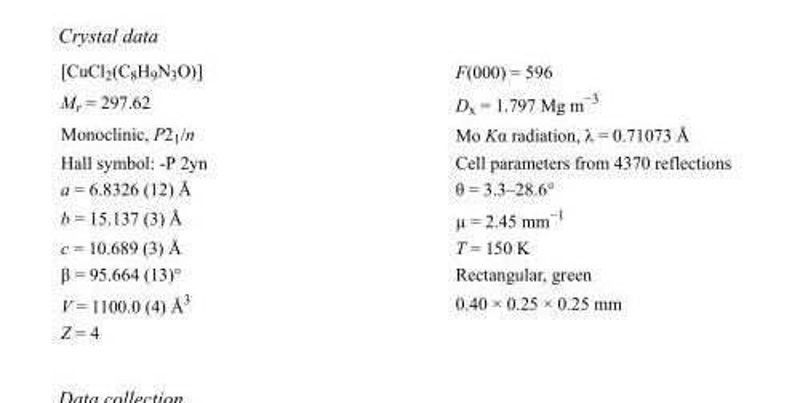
<table><tbody><tr><td>[CuCl<sub>2</sub>(C<sub>8</sub>H<sub>9</sub>N<sub>3</sub>O)]</td><td>F(000) = 596</td></tr><tr><td>M<sub>r</sub> = 297.62</td><td>D<sub>x</sub> = 1.797 Mg m<sup>−3</sup></td></tr><tr><td>Monoclinic, P2<sub>1</sub>/n</td><td>Mo Kα radiation, λ = 0.71073 Å</td></tr><tr><td>Hall symbol: -P 2yn</td><td>Cell parameters from 4370 reflections</td></tr><tr><td>a = 6.8326 (12) Å</td><td>θ = 3.3–28.6°</td></tr><tr><td>b = 15.137 (3) Å</td><td>µ = 2.45 mm<sup>−1</sup></td></tr><tr><td>c = 10.689 (3) Å</td><td>T = 150 K</td></tr><tr><td>β = 95.664 (13)°</td><td>Rectangular, green</td></tr><tr><td>V = 1100.0 (4) Å<sup>3</sup></td><td>0.40 × 0.25 × 0.25 mm</td></tr><tr><td>Z = 4</td><td></td></tr></tbody></table>